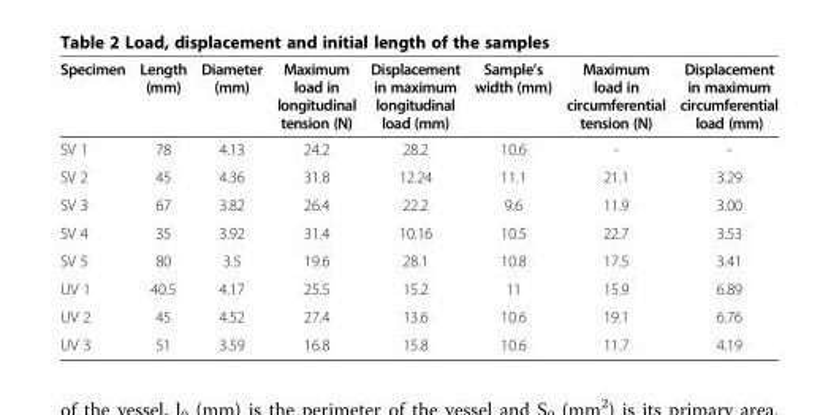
<table><thead><tr><td>Specimen</td><td>Length (mm)</td><td>Diameter (mm)</td><td>Maximum load in longitudinal tension (N)</td><td>Displacement in maximum longitudinal load (mm)</td><td>Sample’s width (mm)</td><td>Maximum load in circumferential tension (N)</td><td>Displacement in maximum circumferential load (mm)</td></tr></thead><tbody><tr><td>SV 1</td><td>78</td><td>4.13</td><td>24.2</td><td>28.2</td><td>10.6</td><td>-</td><td>-</td></tr><tr><td>SV 2</td><td>45</td><td>4.36</td><td>31.8</td><td>12.24</td><td>11.1</td><td>21.1</td><td>3.29</td></tr><tr><td>SV 3</td><td>67</td><td>3.82</td><td>26.4</td><td>22.2</td><td>9.6</td><td>11.9</td><td>3.00</td></tr><tr><td>SV 4</td><td>35</td><td>3.92</td><td>31.4</td><td>10.16</td><td>10.5</td><td>22.7</td><td>3.53</td></tr><tr><td>SV 5</td><td>80</td><td>3.5</td><td>19.6</td><td>28.1</td><td>10.8</td><td>17.5</td><td>3.41</td></tr><tr><td>UV 1</td><td>40.5</td><td>4.17</td><td>25.5</td><td>15.2</td><td>11</td><td>15.9</td><td>6.89</td></tr><tr><td>UV 2</td><td>45</td><td>4.52</td><td>27.4</td><td>13.6</td><td>10.6</td><td>19.1</td><td>6.76</td></tr><tr><td>UV 3</td><td>51</td><td>3.59</td><td>16.8</td><td>15.8</td><td>10.6</td><td>11.7</td><td>4.19</td></tr></tbody></table>